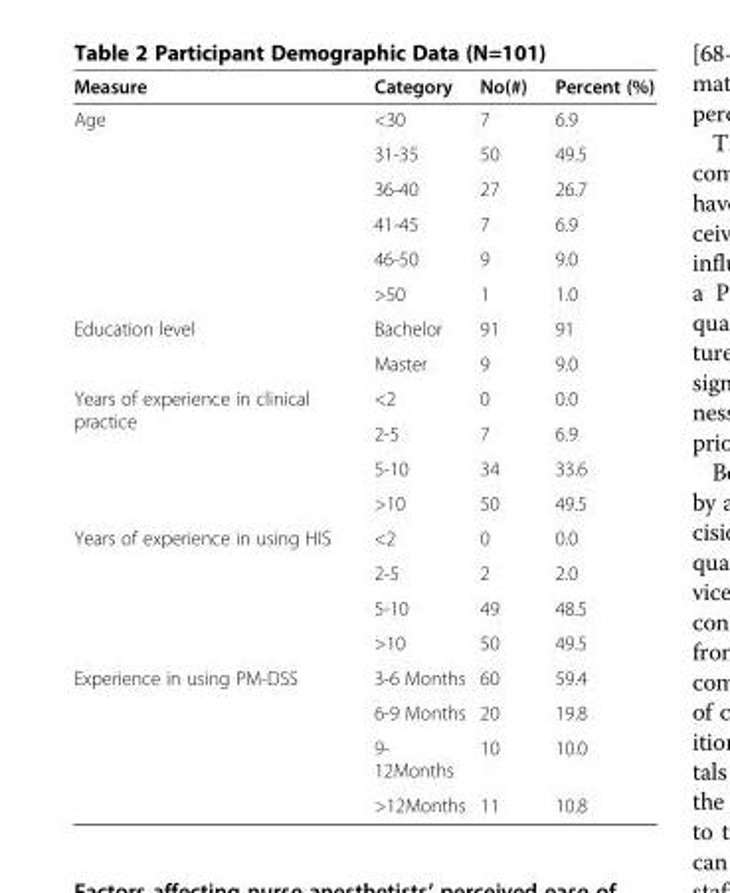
<table><thead><tr><td>Measure</td><td>Category</td><td>No(#)</td><td>Percent (%)</td></tr></thead><tbody><tr><td rowspan="6">Age</td><td>&lt;30</td><td>7</td><td>6.9</td></tr><tr><td>31-35</td><td>50</td><td>49.5</td></tr><tr><td>36-40</td><td>27</td><td>26.7</td></tr><tr><td>41-45</td><td>7</td><td>6.9</td></tr><tr><td>46-50</td><td>9</td><td>9.0</td></tr><tr><td>&gt;50</td><td>1</td><td>1.0</td></tr><tr><td rowspan="2">Education level</td><td>Bachelor</td><td>91</td><td>91</td></tr><tr><td>Master</td><td>9</td><td>9.0</td></tr><tr><td rowspan="4">Years of experience in clinical practice</td><td>&lt;2</td><td>0</td><td>0.0</td></tr><tr><td>2-5</td><td>7</td><td>6.9</td></tr><tr><td>5-10</td><td>34</td><td>33.6</td></tr><tr><td>&gt;10</td><td>50</td><td>49.5</td></tr><tr><td rowspan="4">Years of experience in using HIS</td><td>&lt;2</td><td>0</td><td>0.0</td></tr><tr><td>2-5</td><td>2</td><td>2.0</td></tr><tr><td>5-10</td><td>49</td><td>48.5</td></tr><tr><td>&gt;10</td><td>50</td><td>49.5</td></tr><tr><td rowspan="4">Experience in using PM-DSS</td><td>3-6 Months</td><td>60</td><td>59.4</td></tr><tr><td>6-9 Months</td><td>20</td><td>19.8</td></tr><tr><td>9- 12Months</td><td>10</td><td>10.0</td></tr><tr><td>&gt;12Months</td><td>11</td><td>10.8</td></tr></tbody></table>